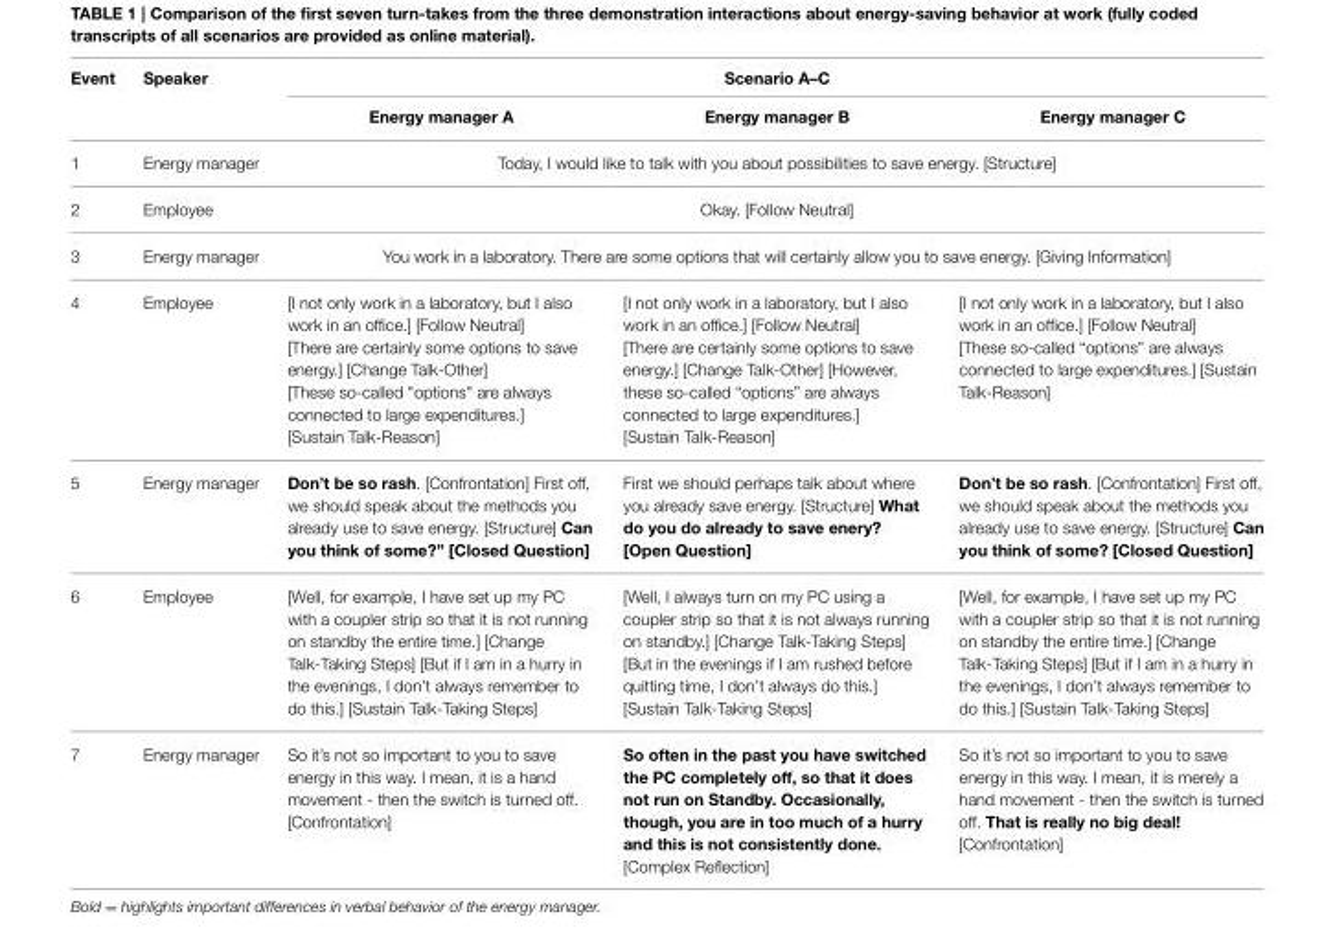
<table><thead><tr><td rowspan="2">Event</td><td rowspan="2">Speaker</td><td colspan="3">Scenario A–C</td></tr><tr><td>Energy manager A</td><td>Energy manager B</td><td>Energy manager C</td></tr></thead><tbody><tr><td>1</td><td>Energy manager</td><td colspan="3">Today, I would like to talk with you about possibilities to save energy. [Structure]</td></tr><tr><td>2</td><td>Employee</td><td colspan="3">Okay. [Follow Neutral]</td></tr><tr><td>3</td><td>Energy manager</td><td colspan="3">You work in a laboratory. There are some options that will certainly allow you to save energy. [Giving Information]</td></tr><tr><td>4</td><td>Employee</td><td>[I not only work in a laboratory, but I also work in an office.] [Follow Neutral] [There are certainly some options to save energy.] [Change Talk-Other] [These so-called &quot;options&quot; are always connected to large expenditures.] [Sustain Talk-Reason]</td><td>[I not only work in a laboratory, but I also work in an office.] [Follow Neutral] [There are certainly some options to save energy.] [Change Talk-Other] [However, these so-called “options” are always connected to large expenditures.] [Sustain Talk-Reason]</td><td>[I not only work in a laboratory, but I also work in an office.] [Follow Neutral] [These so-called “options” are always connected to large expenditures.] [Sustain Talk-Reason]</td></tr><tr><td>5</td><td>Energy manager</td><td>Don’t be so rash. [Confrontation] First off, we should speak about the methods you already use to save energy. [Structure] Can you think of some?” [Closed Question]</td><td>First we should perhaps talk about where you already save energy. [Structure] What do you do already to save enery? [Open Question]</td><td>Don’t be so rash. [Confrontation] First off, we should speak about the methods you already use to save energy. [Structure] Can you think of some? [Closed Question]</td></tr><tr><td>6</td><td>Employee</td><td>[Well, for example, I have set up my PC with a coupler strip so that it is not running on standby the entire time.] [Change Talk-Taking Steps] [But if I am in a hurry in the evenings, I don’t always remember to do this.] [Sustain Talk-Taking Steps]</td><td>[Well, I always turn on my PC using a coupler strip so that it is not always running on standby.] [Change Talk-Taking Steps] [But in the evenings if I am rushed before quitting time, I don’t always do this.] [Sustain Talk-Taking Steps]</td><td>[Well, for example, I have set up my PC with a coupler strip so that it is not running on standby the entire time.] [Change Talk-Taking Steps] [But if I am in a hurry in the evenings, I don’t always remember to do this.] [Sustain Talk-Taking Steps]</td></tr><tr><td>7</td><td>Energy manager</td><td>So it’s not so important to you to save energy in this way. I mean, it is a hand movement - then the switch is turned off. [Confrontation]</td><td>So often in the past you have switched the PC completely off, so that it does not run on Standby. Occasionally, though, you are in too much of a hurry and this is not consistently done. [Complex Reflection]</td><td>So it’s not so important to you to save energy in this way. I mean, it is merely a hand movement - then the switch is turned off. That is really no big deal! [Confrontation]</td></tr></tbody></table>